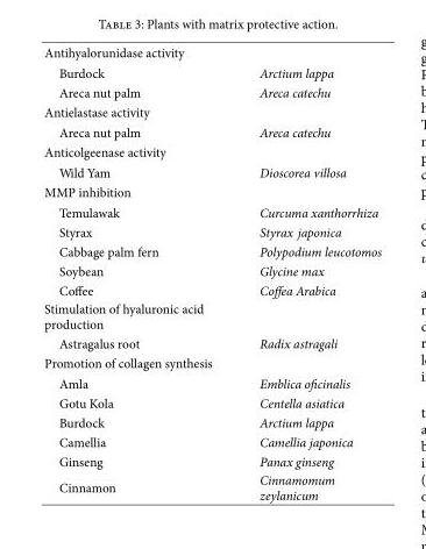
<table><tbody><tr><td colspan="2">Antihyalorunidase activity</td></tr><tr><td>Burdock</td><td>Arctium lappa</td></tr><tr><td>Areca nut palm</td><td>Areca catechu</td></tr><tr><td colspan="2">Antielastase activity</td></tr><tr><td>Areca nut palm</td><td>Areca catechu</td></tr><tr><td colspan="2">Anticolgeenase activity</td></tr><tr><td>Wild Yam</td><td>Dioscorea villosa</td></tr><tr><td colspan="2">MMP inhibition</td></tr><tr><td>Temulawak</td><td>Curcuma xanthorrhiza</td></tr><tr><td>Styrax</td><td>Styrax japonica</td></tr><tr><td>Cabbage palm fern</td><td>Polypodium leucotomos</td></tr><tr><td>Soybean</td><td>Glycine max</td></tr><tr><td>Coffee</td><td>Coffea Arabica</td></tr><tr><td colspan="2">Stimulation of hyaluronic acid production</td></tr><tr><td>Astragalus root</td><td>Radix astragali</td></tr><tr><td colspan="2">Promotion of collagen synthesis</td></tr><tr><td>Amla</td><td>Emblica o�cinalis</td></tr><tr><td>Gotu Kola</td><td>Centella asiatica</td></tr><tr><td>Burdock</td><td>Arctium lappa</td></tr><tr><td>Camellia</td><td>Camellia japonica</td></tr><tr><td>Ginseng</td><td>Panax ginseng</td></tr><tr><td>Cinnamon</td><td>Cinnamomum zeylanicum</td></tr></tbody></table>